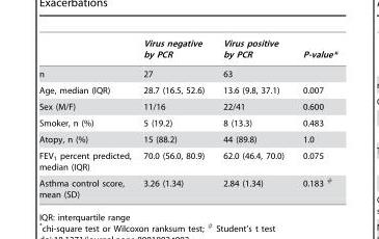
<table><thead><tr><td></td><td>Virus negative by PCR</td><td>Virus positive by PCR</td><td>P-value*</td></tr></thead><tbody><tr><td>n</td><td>27</td><td>63</td><td></td></tr><tr><td>Age, median (IQR)</td><td>28.7 (16.5, 52.6)</td><td>13.6 (9.8, 37.1)</td><td>0.007</td></tr><tr><td>Sex (M/F)</td><td>11/16</td><td>22/41</td><td>0.600</td></tr><tr><td>Smoker, n (%)</td><td>5 (19.2)</td><td>8 (13.3)</td><td>0.483</td></tr><tr><td>Atopy, n (%)</td><td>15 (88.2)</td><td>44 (89.8)</td><td>1.0</td></tr><tr><td>FEV<sub>1</sub> percent predicted, median (IQR)</td><td>70.0 (56.0, 80.9)</td><td>62.0 (46.4, 70.0)</td><td>0.075</td></tr><tr><td>Asthma control score, mean (SD)</td><td>3.26 (1.34)</td><td>2.84 (1.34)</td><td>0.183 #</td></tr></tbody></table>